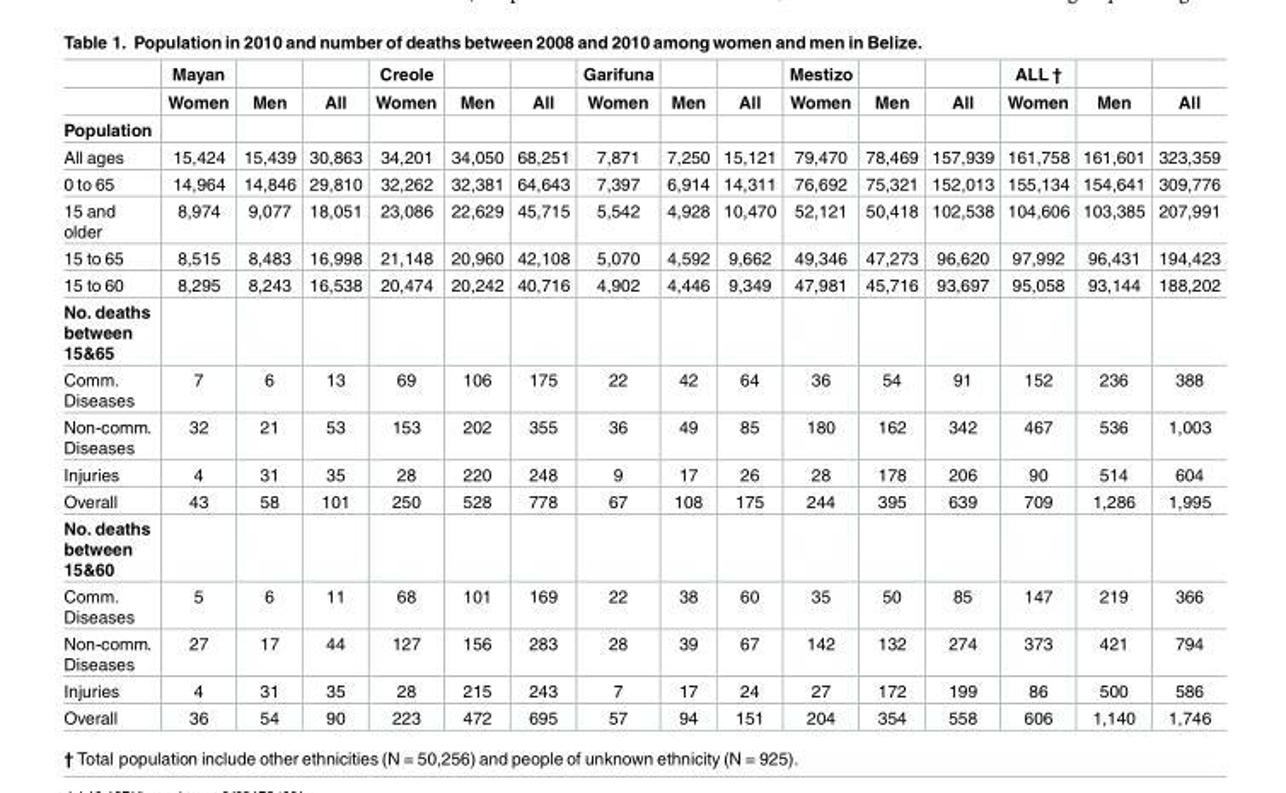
<table><thead><tr><td rowspan="2"></td><td rowspan="2">Mayan Women</td><td rowspan="2">Men</td><td rowspan="2">All</td><td rowspan="2">Creole Women</td><td rowspan="2">Men</td><td rowspan="2">All</td><td rowspan="2">Garifuna Women</td><td rowspan="2">Men</td><td rowspan="2">All</td><td rowspan="2">Mestizo Women</td><td rowspan="2">Men</td><td rowspan="2">All</td><td rowspan="2">ALL † Women</td><td rowspan="2">Men</td><td rowspan="2">All</td></tr><tr></tr></thead><tbody><tr><td colspan="16">Population</td></tr><tr><td>All ages</td><td>15,424</td><td>15,439</td><td>30,863</td><td>34,201</td><td>34,050</td><td>68,251</td><td>7,871</td><td>7,250</td><td>15,121</td><td>79,470</td><td>78,469</td><td>157,939</td><td>161,758</td><td>161,601</td><td>323,359</td></tr><tr><td>0 to 65</td><td>14,964</td><td>14,846</td><td>29,810</td><td>32,262</td><td>32,381</td><td>64,643</td><td>7,397</td><td>6,914</td><td>14,311</td><td>76,692</td><td>75,321</td><td>152,013</td><td>155,134</td><td>154,641</td><td>309,776</td></tr><tr><td>15 and older</td><td>8,974</td><td>9,077</td><td>18,051</td><td>23,086</td><td>22,629</td><td>45,715</td><td>5,542</td><td>4,928</td><td>10,470</td><td>52,121</td><td>50,418</td><td>102,538</td><td>104,606</td><td>103,385</td><td>207,991</td></tr><tr><td>15 to 65</td><td>8,515</td><td>8,483</td><td>16,998</td><td>21,148</td><td>20,960</td><td>42,108</td><td>5,070</td><td>4,592</td><td>9,662</td><td>49,346</td><td>47,273</td><td>96,620</td><td>97,992</td><td>96,431</td><td>194,423</td></tr><tr><td>15 to 60</td><td>8,295</td><td>8,243</td><td>16,538</td><td>20,474</td><td>20,242</td><td>40,716</td><td>4,902</td><td>4,446</td><td>9,349</td><td>47,981</td><td>45,716</td><td>93,697</td><td>95,058</td><td>93,144</td><td>188,202</td></tr><tr><td colspan="16">No. deaths between 15&amp;65</td></tr><tr><td>Comm. Diseases</td><td>7</td><td>6</td><td>13</td><td>69</td><td>106</td><td>175</td><td>22</td><td>42</td><td>64</td><td>36</td><td>54</td><td>91</td><td>152</td><td>236</td><td>388</td></tr><tr><td>Non-comm. Diseases</td><td>32</td><td>21</td><td>53</td><td>153</td><td>202</td><td>355</td><td>36</td><td>49</td><td>85</td><td>180</td><td>162</td><td>342</td><td>467</td><td>536</td><td>1,003</td></tr><tr><td>Injuries</td><td>4</td><td>31</td><td>35</td><td>28</td><td>220</td><td>248</td><td>9</td><td>17</td><td>26</td><td>28</td><td>178</td><td>206</td><td>90</td><td>514</td><td>604</td></tr><tr><td>Overall</td><td>43</td><td>58</td><td>101</td><td>250</td><td>528</td><td>778</td><td>67</td><td>108</td><td>175</td><td>244</td><td>395</td><td>639</td><td>709</td><td>1,286</td><td>1,995</td></tr><tr><td colspan="16">No. deaths between 15&amp;60</td></tr><tr><td>Comm. Diseases</td><td>5</td><td>6</td><td>11</td><td>68</td><td>101</td><td>169</td><td>22</td><td>38</td><td>60</td><td>35</td><td>50</td><td>85</td><td>147</td><td>219</td><td>366</td></tr><tr><td>Non-comm. Diseases</td><td>27</td><td>17</td><td>44</td><td>127</td><td>156</td><td>283</td><td>28</td><td>39</td><td>67</td><td>142</td><td>132</td><td>274</td><td>373</td><td>421</td><td>794</td></tr><tr><td>Injuries</td><td>4</td><td>31</td><td>35</td><td>28</td><td>215</td><td>243</td><td>7</td><td>17</td><td>24</td><td>27</td><td>172</td><td>199</td><td>86</td><td>500</td><td>586</td></tr><tr><td>Overall</td><td>36</td><td>54</td><td>90</td><td>223</td><td>472</td><td>695</td><td>57</td><td>94</td><td>151</td><td>204</td><td>354</td><td>558</td><td>606</td><td>1,140</td><td>1,746</td></tr></tbody></table>